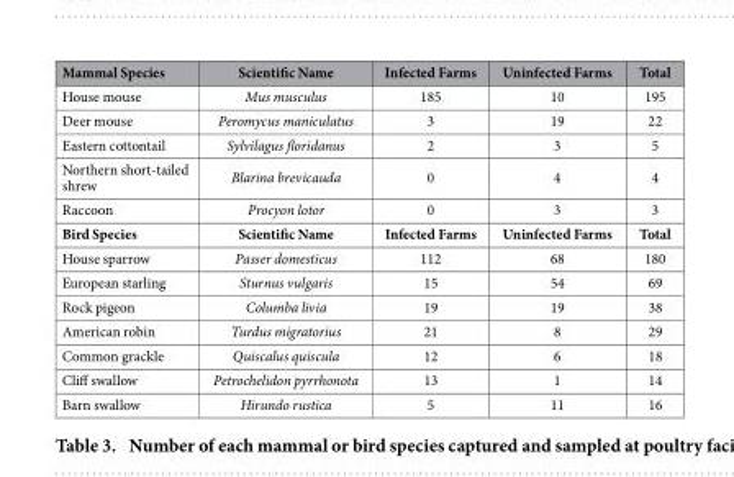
<table><thead><tr><td>Mammal Species</td><td>Scientific Name</td><td>Infected Farms</td><td>Uninfected Farms</td><td>Total</td></tr></thead><tbody><tr><td>House mouse</td><td>Mus musculus</td><td>185</td><td>10</td><td>195</td></tr><tr><td>Deer mouse</td><td>Peromycus maniculatus</td><td>3</td><td>19</td><td>22</td></tr><tr><td>Eastern cottontail</td><td>Sylvilagus floridanus</td><td>2</td><td>3</td><td>5</td></tr><tr><td>Northern short-tailed shrew</td><td>Blarina brevicauda</td><td>0</td><td>4</td><td>4</td></tr><tr><td>Raccoon</td><td>Procyon lotor</td><td>0</td><td>3</td><td>3</td></tr><tr><td>Bird Species</td><td>Scientific Name</td><td>Infected Farms</td><td>Uninfected Farms</td><td>Total</td></tr><tr><td>House sparrow</td><td>Passer domesticus</td><td>112</td><td>68</td><td>180</td></tr><tr><td>European starling</td><td>Sturnus vulgaris</td><td>15</td><td>54</td><td>69</td></tr><tr><td>Rock pigeon</td><td>Columba livia</td><td>19</td><td>19</td><td>38</td></tr><tr><td>American robin</td><td>Turdus migratorius</td><td>21</td><td>8</td><td>29</td></tr><tr><td>Common grackle</td><td>Quiscalus quiscula</td><td>12</td><td>6</td><td>18</td></tr><tr><td>Cliff swallow</td><td>Petrochelidon pyrrhonota</td><td>13</td><td>1</td><td>14</td></tr><tr><td>Barn swallow</td><td>Hirundo rustica</td><td>5</td><td>11</td><td>16</td></tr></tbody></table>